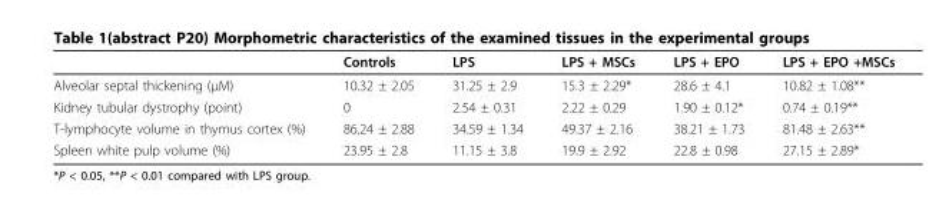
<table><thead><tr><td></td><td>Controls</td><td>LPS</td><td>LPS + MSCs</td><td>LPS + EPO</td><td>LPS + EPO +MSCs</td></tr></thead><tbody><tr><td>Alveolar septal thickening (μM)</td><td>10.32 ± 2.05</td><td>31.25 ± 2.9</td><td>15.3 ± 2.29*</td><td>28.6 ± 4.1</td><td>10.82 ± 1.08**</td></tr><tr><td>Kidney tubular dystrophy (point)</td><td>0</td><td>2.54 ± 0.31</td><td>2.22 ± 0.29</td><td>1.90 ± 0.12*</td><td>0.74 ± 0.19**</td></tr><tr><td>T-lymphocyte volume in thymus cortex (%)</td><td>86.24 ± 2.88</td><td>34.59 ± 1.34</td><td>49.37 ± 2.16</td><td>38.21 ± 1.73</td><td>81.48 ± 2.63**</td></tr><tr><td>Spleen white pulp volume (%)</td><td>23.95 ± 2.8</td><td>11.15 ± 3.8</td><td>19.9 ± 2.92</td><td>22.8 ± 0.98</td><td>27.15 ± 2.89*</td></tr></tbody></table>